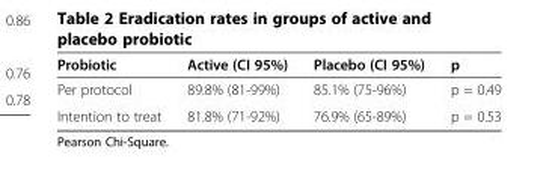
<table><thead><tr><td>Probiotic</td><td>Active (CI 95%)</td><td>Placebo (CI 95%)</td><td>p</td></tr></thead><tbody><tr><td>Per protocol</td><td>89.8% (81-99%)</td><td>85.1% (75-96%)</td><td>p = 0.49</td></tr><tr><td>Intention to treat</td><td>81.8% (71-92%)</td><td>76.9% (65-89%)</td><td>p = 0.53</td></tr></tbody></table>